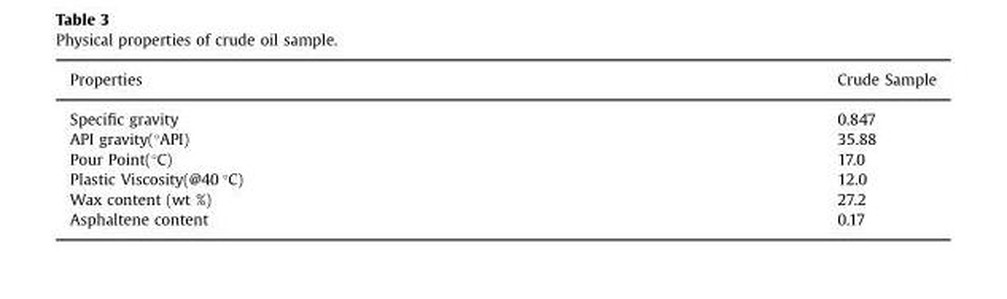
<table><thead><tr><td>Properties</td><td>Crude Sample</td></tr></thead><tbody><tr><td>Specific gravity</td><td>0.847</td></tr><tr><td>API gravity(°API)</td><td>35.88</td></tr><tr><td>Pour Point(°C)</td><td>17.0</td></tr><tr><td>Plastic Viscosity(@40 °C)</td><td>12.0</td></tr><tr><td>Wax content (wt %)</td><td>27.2</td></tr><tr><td>Asphaltene content</td><td>0.17</td></tr></tbody></table>